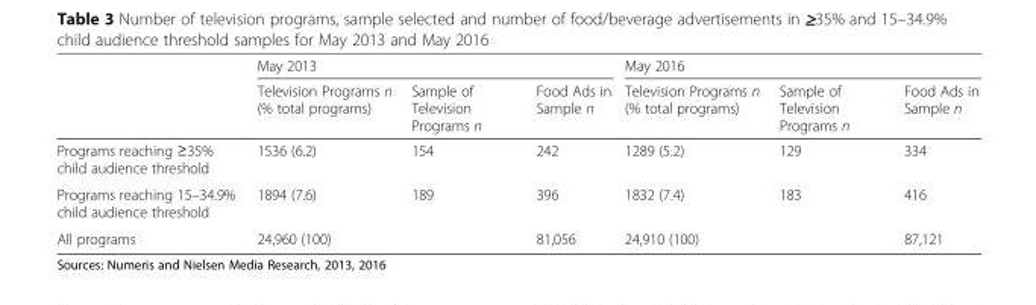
<table><thead><tr><td rowspan="2"></td><td colspan="3">May 2013</td><td colspan="3">May 2016</td></tr><tr><td>Television Programs n (% total programs)</td><td>Sample of Television Programs n</td><td>Food Ads in Sample n</td><td>Television Programs n (% total programs)</td><td>Sample of Television Programs n</td><td>Food Ads in Sample n</td></tr></thead><tbody><tr><td>Programs reaching ≥35% child audience threshold</td><td>1536 (6.2)</td><td>154</td><td>242</td><td>1289 (5.2)</td><td>129</td><td>334</td></tr><tr><td>Programs reaching 15–34.9% child audience threshold</td><td>1894 (7.6)</td><td>189</td><td>396</td><td>1832 (7.4)</td><td>183</td><td>416</td></tr><tr><td>All programs</td><td>24,960 (100)</td><td></td><td>81,056</td><td>24,910 (100)</td><td></td><td>87,121</td></tr></tbody></table>